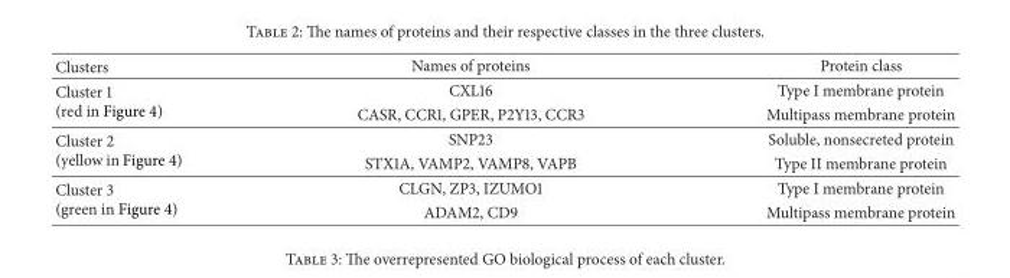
<table><thead><tr><td>Clusters</td><td>Names of proteins</td><td>Protein class</td></tr></thead><tbody><tr><td rowspan="2">Cluster 1 (red in Figure 4)</td><td>CXL16</td><td>Type I membrane protein</td></tr><tr><td>CASR, CCR1, GPER, P2Y13, CCR3</td><td>Multipass membrane protein</td></tr><tr><td rowspan="2">Cluster 2 (yellow in Figure 4)</td><td>SNP23</td><td>Soluble, nonsecreted protein</td></tr><tr><td>STX1A, VAMP2, VAMP8, VAPB</td><td>Type II membrane protein</td></tr><tr><td rowspan="2">Cluster 3 (green in Figure 4)</td><td>CLGN, ZP3, IZUMO1</td><td>Type I membrane protein</td></tr><tr><td>ADAM2, CD9</td><td>Multipass membrane protein</td></tr></tbody></table>